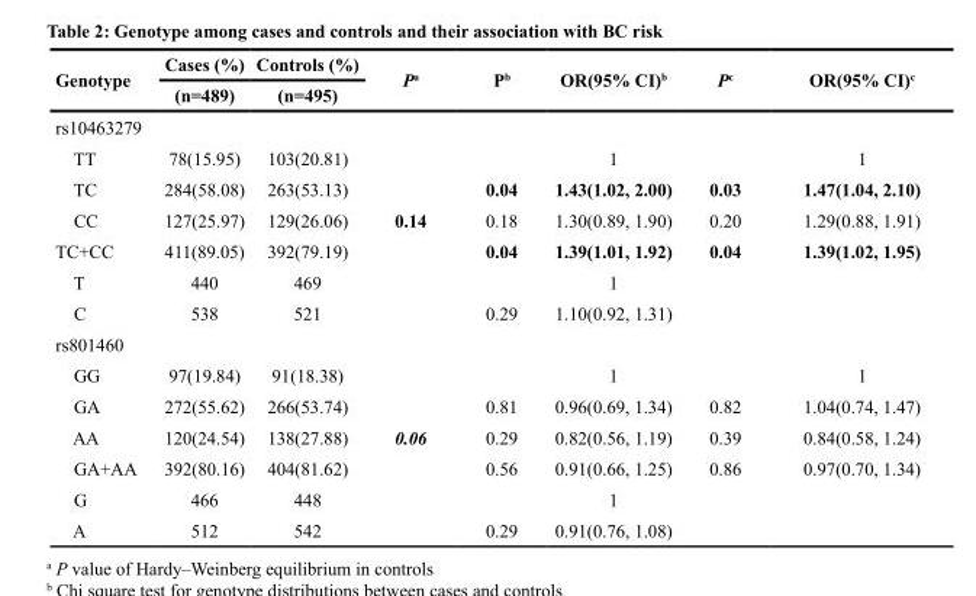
<table><thead><tr><td rowspan="2">Genotype</td><td rowspan="2">Cases (%) (n=489)</td><td rowspan="2">Controls (%) (n=495)</td><td rowspan="2">P<sup>a</sup></td><td rowspan="2">P<sup>b</sup></td><td rowspan="2">OR(95% CI)<sup>b</sup></td><td rowspan="2">P<sup>c</sup></td><td rowspan="2">OR(95% CI)<sup>c</sup></td></tr><tr></tr></thead><tbody><tr><td colspan="8">rs10463279</td></tr><tr><td>TT</td><td>78(15.95)</td><td>103(20.81)</td><td></td><td></td><td>1</td><td></td><td>1</td></tr><tr><td>TC</td><td>284(58.08)</td><td>263(53.13)</td><td></td><td>0.04</td><td>1.43(1.02, 2.00)</td><td>0.03</td><td>1.47(1.04, 2.10)</td></tr><tr><td>CC</td><td>127(25.97)</td><td>129(26.06)</td><td>0.14</td><td>0.18</td><td>1.30(0.89, 1.90)</td><td>0.20</td><td>1.29(0.88, 1.91)</td></tr><tr><td>TC+CC</td><td>411(89.05)</td><td>392(79.19)</td><td></td><td>0.04</td><td>1.39(1.01, 1.92)</td><td>0.04</td><td>1.39(1.02, 1.95)</td></tr><tr><td>T</td><td>440</td><td>469</td><td></td><td></td><td>1</td><td></td><td></td></tr><tr><td>C</td><td>538</td><td>521</td><td></td><td>0.29</td><td>1.10(0.92, 1.31)</td><td></td><td></td></tr><tr><td colspan="8">rs801460</td></tr><tr><td>GG</td><td>97(19.84)</td><td>91(18.38)</td><td></td><td></td><td>1</td><td></td><td>1</td></tr><tr><td>GA</td><td>272(55.62)</td><td>266(53.74)</td><td></td><td>0.81</td><td>0.96(0.69, 1.34)</td><td>0.82</td><td>1.04(0.74, 1.47)</td></tr><tr><td>AA</td><td>120(24.54)</td><td>138(27.88)</td><td>0.06</td><td>0.29</td><td>0.82(0.56, 1.19)</td><td>0.39</td><td>0.84(0.58, 1.24)</td></tr><tr><td>GA+AA</td><td>392(80.16)</td><td>404(81.62)</td><td></td><td>0.56</td><td>0.91(0.66, 1.25)</td><td>0.86</td><td>0.97(0.70, 1.34)</td></tr><tr><td>G</td><td>466</td><td>448</td><td></td><td></td><td>1</td><td></td><td></td></tr><tr><td>A</td><td>512</td><td>542</td><td></td><td>0.29</td><td>0.91(0.76, 1.08)</td><td></td><td></td></tr></tbody></table>